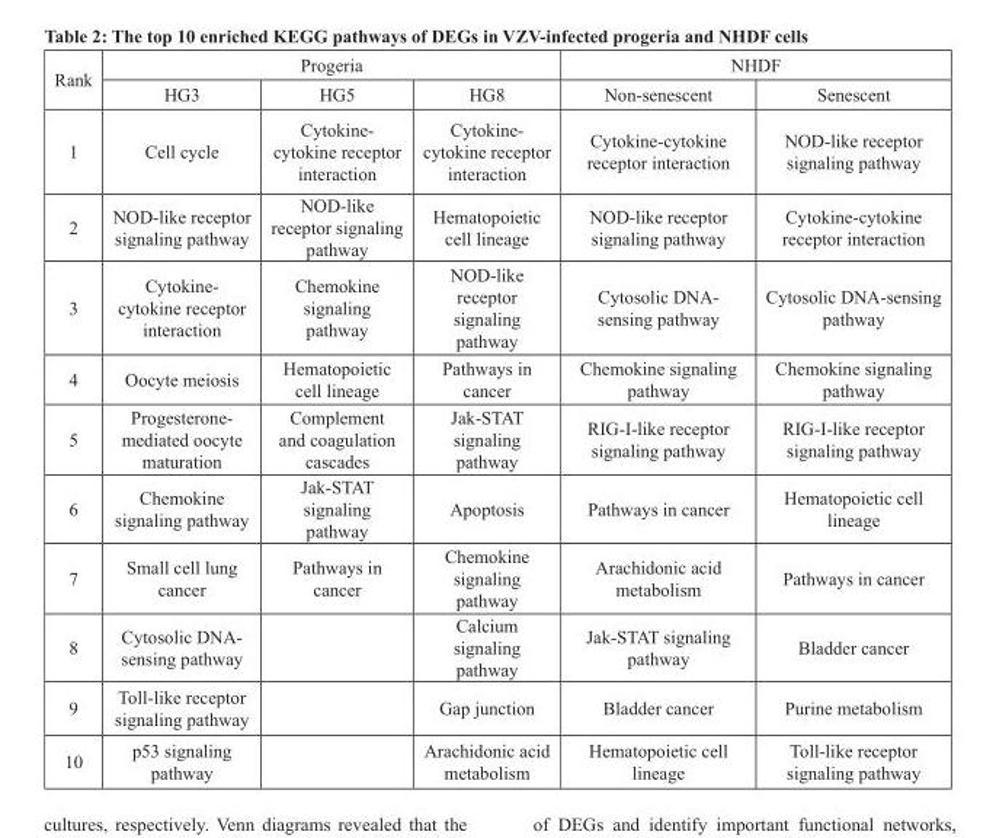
<table><thead><tr><td rowspan="2">Rank</td><td colspan="3">Progeria</td><td colspan="2">NHDF</td></tr><tr><td>HG3</td><td>HG5</td><td>HG8</td><td>Non-senescent</td><td>Senescent</td></tr></thead><tbody><tr><td>1</td><td>Cell cycle</td><td>Cytokine- cytokine receptor interaction</td><td>Cytokine- cytokine receptor interaction</td><td>Cytokine-cytokine receptor interaction</td><td>NOD-like receptor signaling pathway</td></tr><tr><td>2</td><td>NOD-like receptor signaling pathway</td><td>NOD-like receptor signaling pathway</td><td>Hematopoietic cell lineage</td><td>NOD-like receptor signaling pathway</td><td>Cytokine-cytokine receptor interaction</td></tr><tr><td>3</td><td>Cytokine- cytokine receptor interaction</td><td>Chemokine signaling pathway</td><td>NOD-like receptor signaling pathway</td><td>Cytosolic DNA- sensing pathway</td><td>Cytosolic DNA-sensing pathway</td></tr><tr><td>4</td><td>Oocyte meiosis</td><td>Hematopoietic cell lineage</td><td>Pathways in cancer</td><td>Chemokine signaling pathway</td><td>Chemokine signaling pathway</td></tr><tr><td>5</td><td>Progesterone- mediated oocyte maturation</td><td>Complement and coagulation cascades</td><td>Jak-STAT signaling pathway</td><td>RIG-I-like receptor signaling pathway</td><td>RIG-I-like receptor signaling pathway</td></tr><tr><td>6</td><td>Chemokine signaling pathway</td><td>Jak-STAT signaling pathway</td><td>Apoptosis</td><td>Pathways in cancer</td><td>Hematopoietic cell lineage</td></tr><tr><td>7</td><td>Small cell lung cancer</td><td>Pathways in cancer</td><td>Chemokine signaling pathway</td><td>Arachidonic acid metabolism</td><td>Pathways in cancer</td></tr><tr><td>8</td><td>Cytosolic DNA- sensing pathway</td><td></td><td>Calcium signaling pathway</td><td>Jak-STAT signaling pathway</td><td>Bladder cancer</td></tr><tr><td>9</td><td>Toll-like receptor signaling pathway</td><td></td><td>Gap junction</td><td>Bladder cancer</td><td>Purine metabolism</td></tr><tr><td>10</td><td>p53 signaling pathway</td><td></td><td>Arachidonic acid metabolism</td><td>Hematopoietic cell lineage</td><td>Toll-like receptor signaling pathway</td></tr></tbody></table>